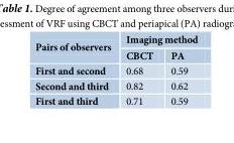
<table><thead><tr><td rowspan="2">Pairs of observers</td><td colspan="2">Imaging method</td></tr><tr><td>CBCT</td><td>PA</td></tr></thead><tbody><tr><td>First and second</td><td>0.68</td><td>0.59</td></tr><tr><td>Second and third</td><td>0.82</td><td>0.62</td></tr><tr><td>First and third</td><td>0.71</td><td>0.59</td></tr></tbody></table>